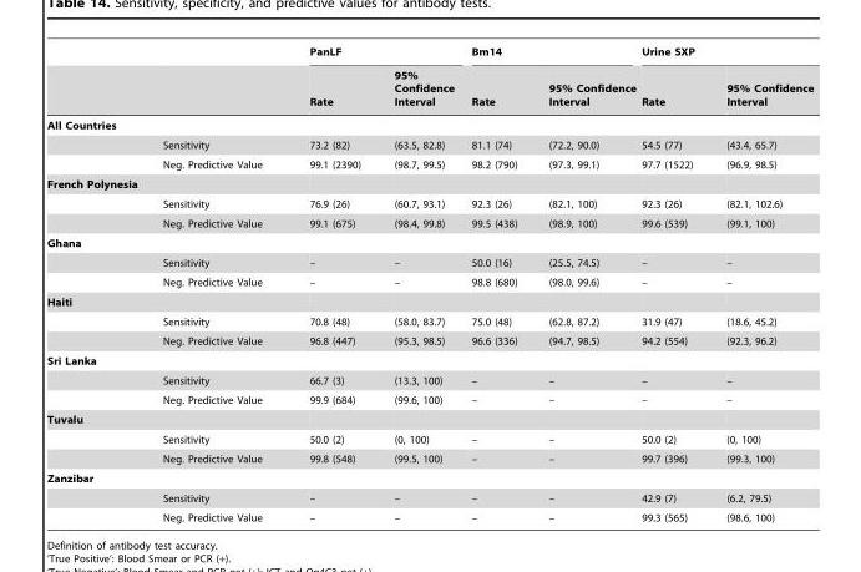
<table><thead><tr><td rowspan="2"></td><td rowspan="2"></td><td colspan="2">PanLF</td><td colspan="2">Bm14</td><td colspan="2">Urine SXP</td></tr><tr><td>Rate</td><td>95% Confidence Interval</td><td>Rate</td><td>95% Confidence Interval</td><td>Rate</td><td>95% Confidence Interval</td></tr></thead><tbody><tr><td colspan="8">All Countries</td></tr><tr><td></td><td>Sensitivity</td><td>73.2 (82)</td><td>(63.5, 82.8)</td><td>81.1 (74)</td><td>(72.2, 90.0)</td><td>54.5 (77)</td><td>(43.4, 65.7)</td></tr><tr><td></td><td>Neg. Predictive Value</td><td>99.1 (2390)</td><td>(98.7, 99.5)</td><td>98.2 (790)</td><td>(97.3, 99.1)</td><td>97.7 (1522)</td><td>(96.9, 98.5)</td></tr><tr><td colspan="8">French Polynesia</td></tr><tr><td></td><td>Sensitivity</td><td>76.9 (26)</td><td>(60.7, 93.1)</td><td>92.3 (26)</td><td>(82.1, 100)</td><td>92.3 (26)</td><td>(82.1, 102.6)</td></tr><tr><td></td><td>Neg. Predictive Value</td><td>99.1 (675)</td><td>(98.4, 99.8)</td><td>99.5 (438)</td><td>(98.9, 100)</td><td>99.6 (539)</td><td>(99.1, 100)</td></tr><tr><td colspan="8">Ghana</td></tr><tr><td></td><td>Sensitivity</td><td>–</td><td>–</td><td>50.0 (16)</td><td>(25.5, 74.5)</td><td>–</td><td>–</td></tr><tr><td></td><td>Neg. Predictive Value</td><td>–</td><td>–</td><td>98.8 (680)</td><td>(98.0, 99.6)</td><td>–</td><td>–</td></tr><tr><td colspan="8">Haiti</td></tr><tr><td></td><td>Sensitivity</td><td>70.8 (48)</td><td>(58.0, 83.7)</td><td>75.0 (48)</td><td>(62.8, 87.2)</td><td>31.9 (47)</td><td>(18.6, 45.2)</td></tr><tr><td></td><td>Neg. Predictive Value</td><td>96.8 (447)</td><td>(95.3, 98.5)</td><td>96.6 (336)</td><td>(94.7, 98.5)</td><td>94.2 (554)</td><td>(92.3, 96.2)</td></tr><tr><td colspan="8">Sri Lanka</td></tr><tr><td></td><td>Sensitivity</td><td>66.7 (3)</td><td>(13.3, 100)</td><td>–</td><td>–</td><td>–</td><td>–</td></tr><tr><td></td><td>Neg. Predictive Value</td><td>99.9 (684)</td><td>(99.6, 100)</td><td>–</td><td>–</td><td>–</td><td>–</td></tr><tr><td colspan="8">Tuvalu</td></tr><tr><td></td><td>Sensitivity</td><td>50.0 (2)</td><td>(0, 100)</td><td>–</td><td>–</td><td>50.0 (2)</td><td>(0, 100)</td></tr><tr><td></td><td>Neg. Predictive Value</td><td>99.8 (548)</td><td>(99.5, 100)</td><td>–</td><td>–</td><td>99.7 (396)</td><td>(99.3, 100)</td></tr><tr><td colspan="8">Zanzibar</td></tr><tr><td></td><td>Sensitivity</td><td>–</td><td>–</td><td>–</td><td>–</td><td>42.9 (7)</td><td>(6.2, 79.5)</td></tr><tr><td></td><td>Neg. Predictive Value</td><td>–</td><td>–</td><td>–</td><td>–</td><td>99.3 (565)</td><td>(98.6, 100)</td></tr></tbody></table>